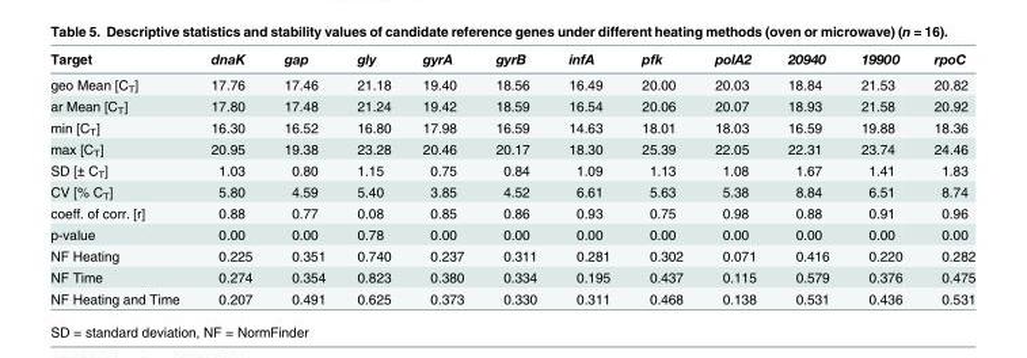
<table><thead><tr><td>Target</td><td>dnaK</td><td>gap</td><td>gly</td><td>gyrA</td><td>gyrB</td><td>infA</td><td>pfk</td><td>polA2</td><td>20940</td><td>19900</td><td>rpoC</td></tr></thead><tbody><tr><td>geo Mean [C<sub>T</sub>]</td><td>17.76</td><td>17.46</td><td>21.18</td><td>19.40</td><td>18.56</td><td>16.49</td><td>20.00</td><td>20.03</td><td>18.84</td><td>21.53</td><td>20.82</td></tr><tr><td>ar Mean [C<sub>T</sub>]</td><td>17.80</td><td>17.48</td><td>21.24</td><td>19.42</td><td>18.59</td><td>16.54</td><td>20.06</td><td>20.07</td><td>18.93</td><td>21.58</td><td>20.92</td></tr><tr><td>min [C<sub>T</sub>]</td><td>16.30</td><td>16.52</td><td>16.80</td><td>17.98</td><td>16.59</td><td>14.63</td><td>18.01</td><td>18.03</td><td>16.59</td><td>19.88</td><td>18.36</td></tr><tr><td>max [C<sub>T</sub>]</td><td>20.95</td><td>19.38</td><td>23.28</td><td>20.46</td><td>20.17</td><td>18.30</td><td>25.39</td><td>22.05</td><td>22.31</td><td>23.74</td><td>24.46</td></tr><tr><td>SD [± C<sub>T</sub>]</td><td>1.03</td><td>0.80</td><td>1.15</td><td>0.75</td><td>0.84</td><td>1.09</td><td>1.13</td><td>1.08</td><td>1.67</td><td>1.41</td><td>1.83</td></tr><tr><td>CV [% C<sub>T</sub>]</td><td>5.80</td><td>4.59</td><td>5.40</td><td>3.85</td><td>4.52</td><td>6.61</td><td>5.63</td><td>5.38</td><td>8.84</td><td>6.51</td><td>8.74</td></tr><tr><td>coeff. of corr. [r]</td><td>0.88</td><td>0.77</td><td>0.08</td><td>0.85</td><td>0.86</td><td>0.93</td><td>0.75</td><td>0.98</td><td>0.88</td><td>0.91</td><td>0.96</td></tr><tr><td>p-value</td><td>0.00</td><td>0.00</td><td>0.78</td><td>0.00</td><td>0.00</td><td>0.00</td><td>0.00</td><td>0.00</td><td>0.00</td><td>0.00</td><td>0.00</td></tr><tr><td>NF Heating</td><td>0.225</td><td>0.351</td><td>0.740</td><td>0.237</td><td>0.311</td><td>0.281</td><td>0.302</td><td>0.071</td><td>0.416</td><td>0.220</td><td>0.282</td></tr><tr><td>NF Time</td><td>0.274</td><td>0.354</td><td>0.823</td><td>0.380</td><td>0.334</td><td>0.195</td><td>0.437</td><td>0.115</td><td>0.579</td><td>0.376</td><td>0.475</td></tr><tr><td>NF Heating and Time</td><td>0.207</td><td>0.491</td><td>0.625</td><td>0.373</td><td>0.330</td><td>0.311</td><td>0.468</td><td>0.138</td><td>0.531</td><td>0.436</td><td>0.531</td></tr></tbody></table>